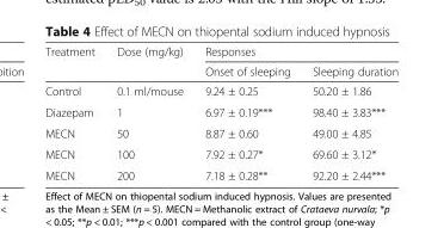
<table><thead><tr><td rowspan="2">Treatment</td><td rowspan="2">Dose (mg/kg)</td><td colspan="2">Responses</td></tr><tr><td>Onset of sleeping</td><td>Sleeping duration</td></tr></thead><tbody><tr><td>Control</td><td>0.1 ml/mouse</td><td>9.24 ± 0.25</td><td>50.20 ± 1.86</td></tr><tr><td>Diazepam</td><td>1</td><td>6.97 ± 0.19***</td><td>98.40 ± 3.83***</td></tr><tr><td>MECN</td><td>50</td><td>8.87 ± 0.60</td><td>49.00 ± 4.85</td></tr><tr><td>MECN</td><td>100</td><td>7.92 ± 0.27*</td><td>69.60 ± 3.12*</td></tr><tr><td>MECN</td><td>200</td><td>7.18 ± 0.28**</td><td>92.20 ± 2.44***</td></tr></tbody></table>